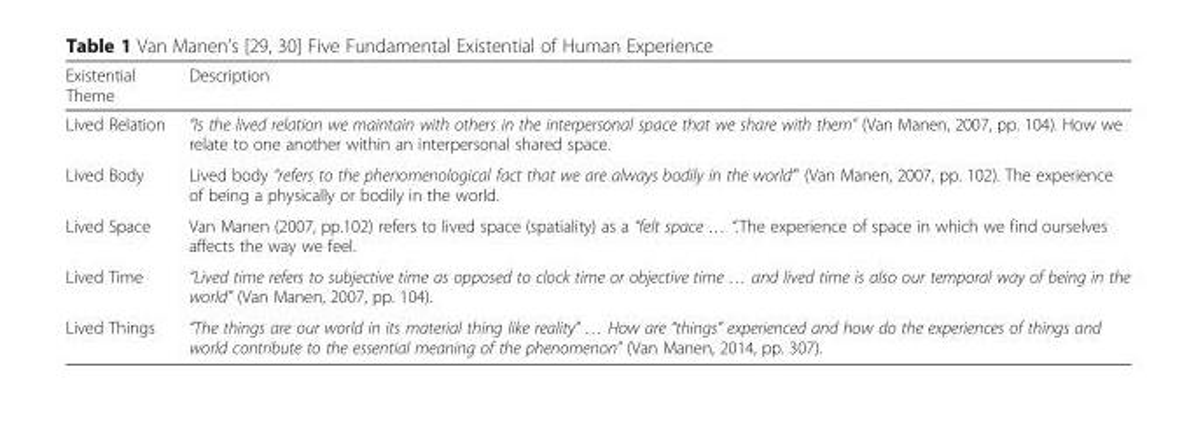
<table><thead><tr><td>Existential Theme</td><td>Description</td></tr></thead><tbody><tr><td>Lived Relation</td><td>“Is the lived relation we maintain with others in the interpersonal space that we share with them” (Van Manen, 2007, pp. 104). How we relate to one another within an interpersonal shared space.</td></tr><tr><td>Lived Body</td><td>Lived body “refers to the phenomenological fact that we are always bodily in the world’” (Van Manen, 2007, pp. 102). The experience of being a physically or bodily in the world.</td></tr><tr><td>Lived Space</td><td>Van Manen (2007, pp.102) refers to lived space (spatiality) as a “felt space … “.The experience of space in which we find ourselves affects the way we feel.</td></tr><tr><td>Lived Time</td><td>“Lived time refers to subjective time as opposed to clock time or objective time … and lived time is also our temporal way of being in the world” (Van Manen, 2007, pp. 104).</td></tr><tr><td>Lived Things</td><td>“The things are our world in its material thing like reality” … How are “things” experienced and how do the experiences of things and world contribute to the essential meaning of the phenomenon” (Van Manen, 2014, pp. 307).</td></tr></tbody></table>